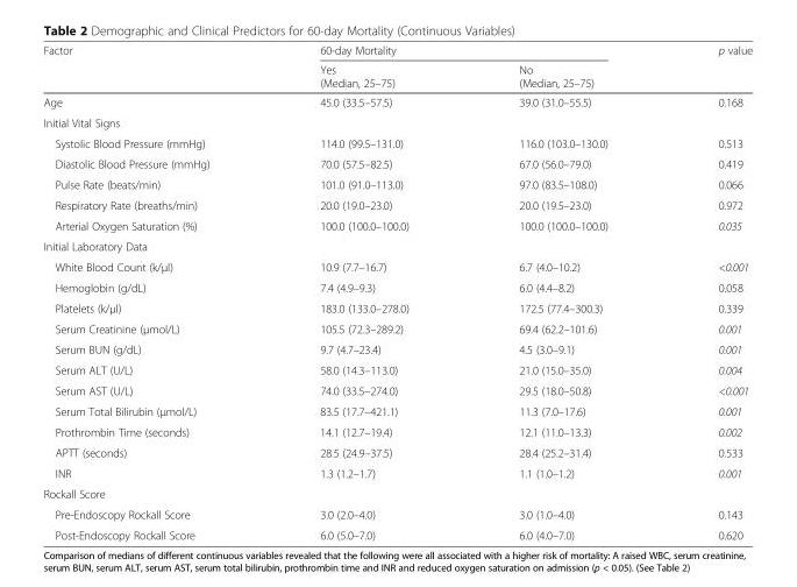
<table><thead><tr><td rowspan="2">Factor</td><td colspan="2">60-day Mortality</td><td rowspan="2">p value</td></tr><tr><td>Yes (Median, 25–75)</td><td>No (Median, 25–75)</td></tr></thead><tbody><tr><td>Age</td><td>45.0 (33.5–57.5)</td><td>39.0 (31.0–55.5)</td><td>0.168</td></tr><tr><td colspan="4">Initial Vital Signs</td></tr><tr><td>Systolic Blood Pressure (mmHg)</td><td>114.0 (99.5–131.0)</td><td>116.0 (103.0–130.0)</td><td>0.513</td></tr><tr><td>Diastolic Blood Pressure (mmHg)</td><td>70.0 (57.5–82.5)</td><td>67.0 (56.0–79.0)</td><td>0.419</td></tr><tr><td>Pulse Rate (beats/min)</td><td>101.0 (91.0–113.0)</td><td>97.0 (83.5–108.0)</td><td>0.066</td></tr><tr><td>Respiratory Rate (breaths/min)</td><td>20.0 (19.0–23.0)</td><td>20.0 (19.5–23.0)</td><td>0.972</td></tr><tr><td>Arterial Oxygen Saturation (%)</td><td>100.0 (100.0–100.0)</td><td>100.0 (100.0–100.0)</td><td>0.035</td></tr><tr><td colspan="4">Initial Laboratory Data</td></tr><tr><td>White Blood Count (k/μl)</td><td>10.9 (7.7–16.7)</td><td>6.7 (4.0–10.2)</td><td>&lt;0.001</td></tr><tr><td>Hemoglobin (g/dL)</td><td>7.4 (4.9–9.3)</td><td>6.0 (4.4–8.2)</td><td>0.058</td></tr><tr><td>Platelets (k/μl)</td><td>183.0 (133.0–278.0)</td><td>172.5 (77.4–300.3)</td><td>0.339</td></tr><tr><td>Serum Creatinine (μmol/L)</td><td>105.5 (72.3–289.2)</td><td>69.4 (62.2–101.6)</td><td>0.001</td></tr><tr><td>Serum BUN (g/dL)</td><td>9.7 (4.7–23.4)</td><td>4.5 (3.0–9.1)</td><td>0.001</td></tr><tr><td>Serum ALT (U/L)</td><td>58.0 (14.3–113.0)</td><td>21.0 (15.0–35.0)</td><td>0.004</td></tr><tr><td>Serum AST (U/L)</td><td>74.0 (33.5–274.0)</td><td>29.5 (18.0–50.8)</td><td>&lt;0.001</td></tr><tr><td>Serum Total Bilirubin (μmol/L)</td><td>83.5 (17.7–421.1)</td><td>11.3 (7.0–17.6)</td><td>0.001</td></tr><tr><td>Prothrombin Time (seconds)</td><td>14.1 (12.7–19.4)</td><td>12.1 (11.0–13.3)</td><td>0.002</td></tr><tr><td>APTT (seconds)</td><td>28.5 (24.9–37.5)</td><td>28.4 (25.2–31.4)</td><td>0.533</td></tr><tr><td>INR</td><td>1.3 (1.2–1.7)</td><td>1.1 (1.0–1.2)</td><td>0.001</td></tr><tr><td colspan="4">Rockall Score</td></tr><tr><td>Pre-Endoscopy Rockall Score</td><td>3.0 (2.0–4.0)</td><td>3.0 (1.0–4.0)</td><td>0.143</td></tr><tr><td>Post-Endoscopy Rockall Score</td><td>6.0 (5.0–7.0)</td><td>6.0 (4.0–7.0)</td><td>0.620</td></tr></tbody></table>